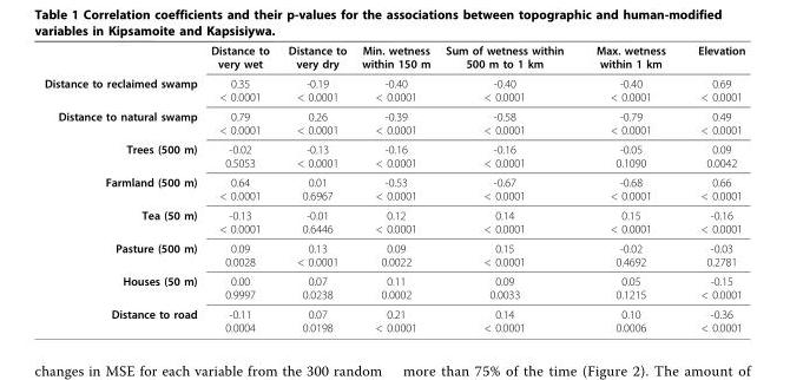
<table><thead><tr><td></td><td>Distance to very wet</td><td>Distance to very dry</td><td>Min. wetness within 150 m</td><td>Sum of wetness within 500 m to 1 km</td><td>Max. wetness within 1 km</td><td>Elevation</td></tr></thead><tbody><tr><td>Distance to reclaimed swamp</td><td>0.35 &lt; 0.0001</td><td>-0.19 &lt; 0.0001</td><td>-0.40 &lt; 0.0001</td><td>-0.40 &lt; 0.0001</td><td>-0.40 &lt; 0.0001</td><td>0.69 &lt; 0.0001</td></tr><tr><td>Distance to natural swamp</td><td>0.79 &lt; 0.0001</td><td>0.26 &lt; 0.0001</td><td>-0.39 &lt; 0.0001</td><td>-0.58 &lt; 0.0001</td><td>-0.79 &lt; 0.0001</td><td>0.49 &lt; 0.0001</td></tr><tr><td>Trees (500 m)</td><td>-0.02 0.5053</td><td>-0.13 &lt; 0.0001</td><td>-0.16 &lt; 0.0001</td><td>-0.16 &lt; 0.0001</td><td>-0.05 0.1090</td><td>0.09 0.0042</td></tr><tr><td>Farmland (500 m)</td><td>0.64 &lt; 0.0001</td><td>0.01 0.6967</td><td>-0.53 &lt; 0.0001</td><td>-0.67 &lt; 0.0001</td><td>-0.68 &lt; 0.0001</td><td>0.66 &lt; 0.0001</td></tr><tr><td>Tea (50 m)</td><td>-0.13 &lt; 0.0001</td><td>-0.01 0.6446</td><td>0.12 &lt; 0.0001</td><td>0.14 &lt; 0.0001</td><td>0.15 &lt; 0.0001</td><td>-0.16 &lt; 0.0001</td></tr><tr><td>Pasture (500 m)</td><td>0.09 0.0028</td><td>0.13 &lt; 0.0001</td><td>0.09 0.0022</td><td>0.15 &lt; 0.0001</td><td>-0.02 0.4692</td><td>-0.03 0.2781</td></tr><tr><td>Houses (50 m)</td><td>0.00 0.9997</td><td>0.07 0.0238</td><td>0.11 0.0002</td><td>0.09 0.0033</td><td>0.05 0.1215</td><td>-0.15 &lt; 0.0001</td></tr><tr><td>Distance to road</td><td>-0.11 0.0004</td><td>0.07 0.0198</td><td>0.21 &lt; 0.0001</td><td>0.14 &lt; 0.0001</td><td>0.10 0.0006</td><td>-0.36 &lt; 0.0001</td></tr></tbody></table>